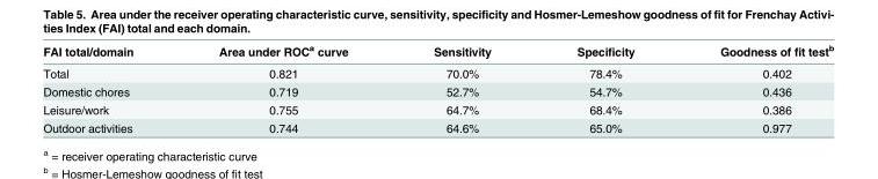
<table><thead><tr><td>FAI total/domain</td><td>Area under ROC<sup>a</sup> curve</td><td>Sensitivity</td><td>Specificity</td><td>Goodness of fit test<sup>b</sup></td></tr></thead><tbody><tr><td>Total</td><td>0.821</td><td>70.0%</td><td>78.4%</td><td>0.402</td></tr><tr><td>Domestic chores</td><td>0.719</td><td>52.7%</td><td>54.7%</td><td>0.436</td></tr><tr><td>Leisure/work</td><td>0.755</td><td>64.7%</td><td>68.4%</td><td>0.386</td></tr><tr><td>Outdoor activities</td><td>0.744</td><td>64.6%</td><td>65.0%</td><td>0.977</td></tr></tbody></table>